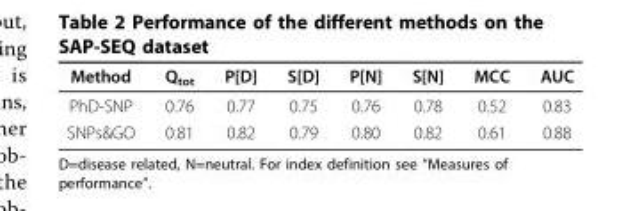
<table><thead><tr><td>Method</td><td>Q<sub>tot</sub></td><td>P[D]</td><td>S[D]</td><td>P[N]</td><td>S[N]</td><td>MCC</td><td>AUC</td></tr></thead><tbody><tr><td>PhD-SNP</td><td>0.76</td><td>0.77</td><td>0.75</td><td>0.76</td><td>0.78</td><td>0.52</td><td>0.83</td></tr><tr><td>SNPs&amp;GO</td><td>0.81</td><td>0.82</td><td>0.79</td><td>0.80</td><td>0.82</td><td>0.61</td><td>0.88</td></tr></tbody></table>